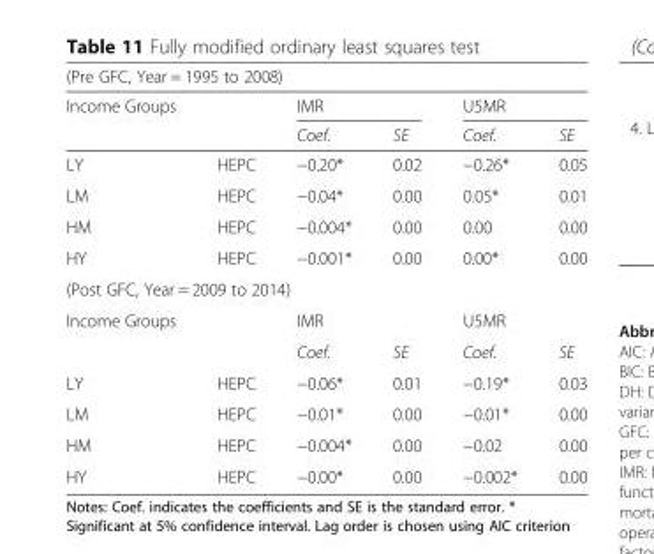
<table><thead><tr><td colspan="6">(Pre GFC, Year = 1995 to 2008)</td></tr><tr><td rowspan="2">Income Groups</td><td rowspan="2"></td><td colspan="2">IMR</td><td colspan="2">U5MR</td></tr><tr><td>Coef.</td><td>SE</td><td>Coef.</td><td>SE</td></tr></thead><tbody><tr><td>LY</td><td>HEPC</td><td>−0.20*</td><td>0.02</td><td>−0.26*</td><td>0.05</td></tr><tr><td>LM</td><td>HEPC</td><td>−0.04*</td><td>0.00</td><td>0.05*</td><td>0.01</td></tr><tr><td>HM</td><td>HEPC</td><td>−0.004*</td><td>0.00</td><td>0.00</td><td>0.00</td></tr><tr><td>HY</td><td>HEPC</td><td>−0.001*</td><td>0.00</td><td>0.00*</td><td>0.00</td></tr><tr><td colspan="6">(Post GFC, Year = 2009 to 2014)</td></tr><tr><td rowspan="2">Income Groups</td><td rowspan="2"></td><td colspan="2">IMR</td><td colspan="2">U5MR</td></tr><tr><td>Coef.</td><td>SE</td><td>Coef.</td><td>SE</td></tr><tr><td>LY</td><td>HEPC</td><td>−0.06*</td><td>0.01</td><td>−0.19*</td><td>0.03</td></tr><tr><td>LM</td><td>HEPC</td><td>−0.01*</td><td>0.00</td><td>−0.01*</td><td>0.00</td></tr><tr><td>HM</td><td>HEPC</td><td>−0.004*</td><td>0.00</td><td>−0.02</td><td>0.00</td></tr><tr><td>HY</td><td>HEPC</td><td>−0.00*</td><td>0.00</td><td>−0.002*</td><td>0.00</td></tr></tbody></table>